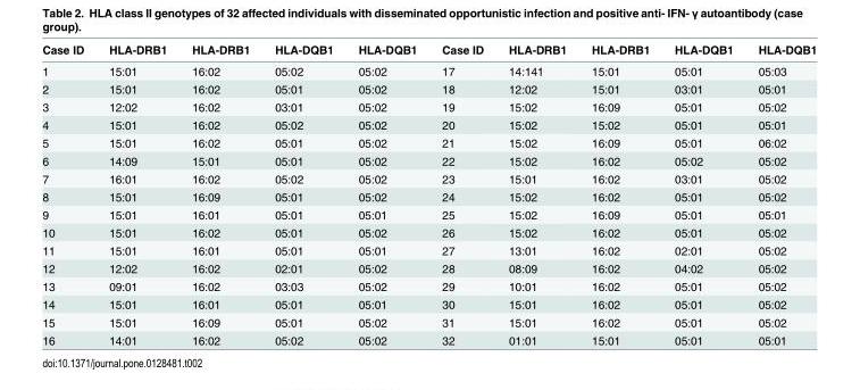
<table><thead><tr><td>Case ID</td><td>HLA-DRB1</td><td>HLA-DRB1</td><td>HLA-DQB1</td><td>HLA-DQB1</td><td>Case ID</td><td>HLA-DRB1</td><td>HLA-DRB1</td><td>HLA-DQB1</td><td>HLA-DQB1</td></tr></thead><tbody><tr><td>1</td><td>15:01</td><td>16:02</td><td>05:02</td><td>05:02</td><td>17</td><td>14:141</td><td>15:01</td><td>05:01</td><td>05:03</td></tr><tr><td>2</td><td>15:01</td><td>16:02</td><td>05:01</td><td>05:02</td><td>18</td><td>12:02</td><td>15:01</td><td>03:01</td><td>05:01</td></tr><tr><td>3</td><td>12:02</td><td>16:02</td><td>03:01</td><td>05:02</td><td>19</td><td>15:02</td><td>16:09</td><td>05:01</td><td>05:02</td></tr><tr><td>4</td><td>15:01</td><td>16:02</td><td>05:02</td><td>05:02</td><td>20</td><td>15:02</td><td>15:02</td><td>05:01</td><td>05:01</td></tr><tr><td>5</td><td>15:01</td><td>16:02</td><td>05:01</td><td>05:02</td><td>21</td><td>15:02</td><td>16:09</td><td>05:01</td><td>06:02</td></tr><tr><td>6</td><td>14:09</td><td>15:01</td><td>05:01</td><td>05:02</td><td>22</td><td>15:02</td><td>16:02</td><td>05:02</td><td>05:02</td></tr><tr><td>7</td><td>16:01</td><td>16:02</td><td>05:02</td><td>05:02</td><td>23</td><td>15:01</td><td>16:02</td><td>03:01</td><td>05:02</td></tr><tr><td>8</td><td>15:01</td><td>16:09</td><td>05:01</td><td>05:02</td><td>24</td><td>15:02</td><td>16:02</td><td>05:01</td><td>05:02</td></tr><tr><td>9</td><td>15:01</td><td>16:01</td><td>05:01</td><td>05:01</td><td>25</td><td>15:02</td><td>16:09</td><td>05:01</td><td>05:01</td></tr><tr><td>10</td><td>15:01</td><td>16:02</td><td>05:01</td><td>05:02</td><td>26</td><td>15:02</td><td>16:02</td><td>05:01</td><td>05:02</td></tr><tr><td>11</td><td>15:01</td><td>16:01</td><td>05:01</td><td>05:01</td><td>27</td><td>13:01</td><td>16:02</td><td>02:01</td><td>05:02</td></tr><tr><td>12</td><td>12:02</td><td>16:02</td><td>02:01</td><td>05:02</td><td>28</td><td>08:09</td><td>16:02</td><td>04:02</td><td>05:02</td></tr><tr><td>13</td><td>09:01</td><td>16:02</td><td>03:03</td><td>05:02</td><td>29</td><td>10:01</td><td>16:02</td><td>05:01</td><td>05:02</td></tr><tr><td>14</td><td>15:01</td><td>16:01</td><td>05:01</td><td>05:01</td><td>30</td><td>15:01</td><td>16:02</td><td>05:01</td><td>05:02</td></tr><tr><td>15</td><td>15:01</td><td>16:09</td><td>05:01</td><td>05:02</td><td>31</td><td>15:01</td><td>16:02</td><td>05:01</td><td>05:02</td></tr><tr><td>16</td><td>14:01</td><td>16:02</td><td>05:02</td><td>05:02</td><td>32</td><td>01:01</td><td>15:01</td><td>05:01</td><td>05:01</td></tr></tbody></table>